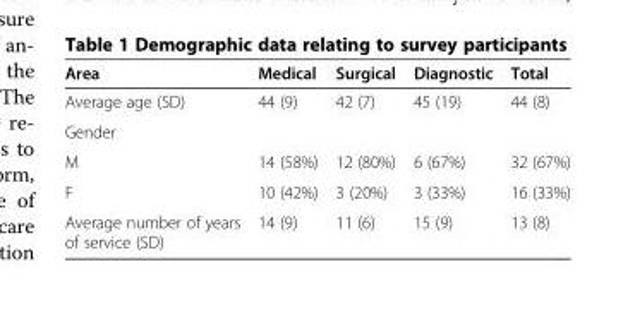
<table><thead><tr><td>Area</td><td>Medical</td><td>Surgical</td><td>Diagnostic</td><td>Total</td></tr></thead><tbody><tr><td>Average age (SD)</td><td>44 (9)</td><td>42 (7)</td><td>45 (19)</td><td>44 (8)</td></tr><tr><td colspan="5">Gender</td></tr><tr><td>M</td><td>14 (58%)</td><td>12 (80%)</td><td>6 (67%)</td><td>32 (67%)</td></tr><tr><td>F</td><td>10 (42%)</td><td>3 (20%)</td><td>3 (33%)</td><td>16 (33%)</td></tr><tr><td>Average number of years of service (SD)</td><td>14 (9)</td><td>11 (6)</td><td>15 (9)</td><td>13 (8)</td></tr></tbody></table>